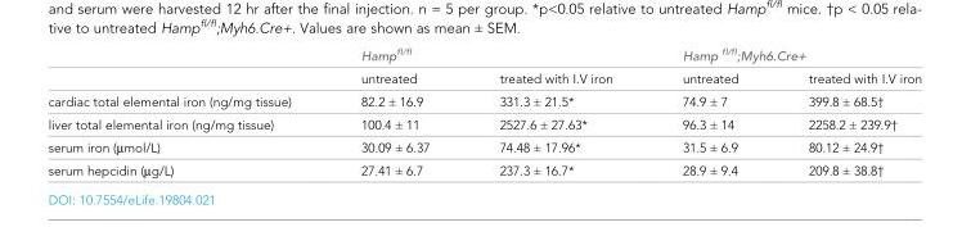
<table><thead><tr><td rowspan="2"></td><td colspan="2">Hamp<sup>fl/fl</sup></td><td colspan="2">Hamp <sup>fl/fl</sup>;Myh6.Cre+</td></tr><tr><td>untreated</td><td>treated with I.V iron</td><td>untreated</td><td>treated with I.V iron</td></tr></thead><tbody><tr><td>cardiac total elemental iron (ng/mg tissue)</td><td>82.2 ± 16.9</td><td>331.3 ± 21.5*</td><td>74.9 ± 7</td><td>399.8 ± 68.5†</td></tr><tr><td>liver total elemental iron (ng/mg tissue)</td><td>100.4 ± 11</td><td>2527.6 ± 27.63*</td><td>96.3 ± 14</td><td>2258.2 ± 239.9†</td></tr><tr><td>serum iron (µmol/L)</td><td>30.09 ± 6.37</td><td>74.48 ± 17.96*</td><td>31.5 ± 6.9</td><td>80.12 ± 24.9†</td></tr><tr><td>serum hepcidin (µg/L)</td><td>27.41 ± 6.7</td><td>237.3 ± 16.7*</td><td>28.9 ± 9.4</td><td>209.8 ± 38.8†</td></tr></tbody></table>